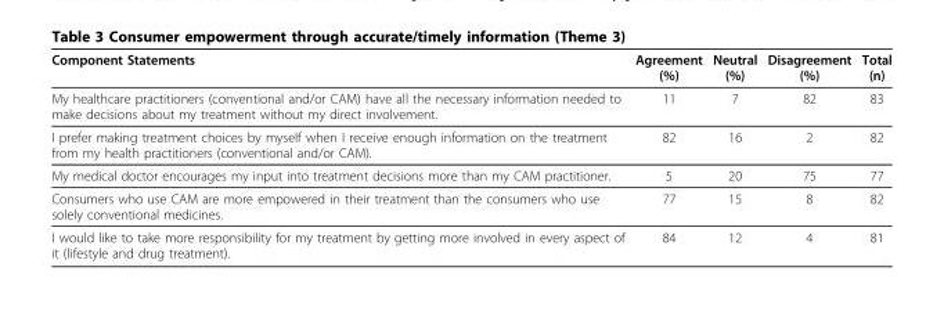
<table><thead><tr><td>Component Statements</td><td>Agreement (%)</td><td>Neutral (%)</td><td>Disagreement (%)</td><td>Total (n)</td></tr></thead><tbody><tr><td>My healthcare practitioners (conventional and/or CAM) have all the necessary information needed to make decisions about my treatment without my direct involvement.</td><td>11</td><td>7</td><td>82</td><td>83</td></tr><tr><td>I prefer making treatment choices by myself when I receive enough information on the treatment from my health practitioners (conventional and/or CAM).</td><td>82</td><td>16</td><td>2</td><td>82</td></tr><tr><td>My medical doctor encourages my input into treatment decisions more than my CAM practitioner.</td><td>5</td><td>20</td><td>75</td><td>77</td></tr><tr><td>Consumers who use CAM are more empowered in their treatment than the consumers who use solely conventional medicines.</td><td>77</td><td>15</td><td>8</td><td>82</td></tr><tr><td>I would like to take more responsibility for my treatment by getting more involved in every aspect of it (lifestyle and drug treatment).</td><td>84</td><td>12</td><td>4</td><td>81</td></tr></tbody></table>